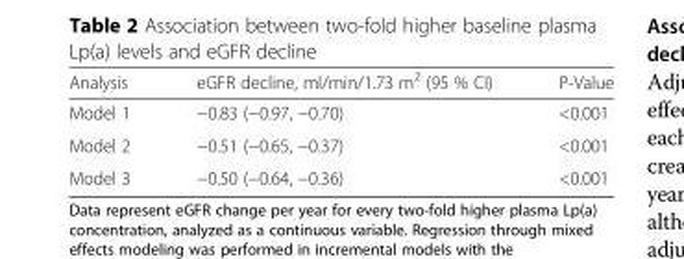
<table><thead><tr><td>Analysis</td><td>eGFR decline, ml/min/1.73 m<sup>2</sup> (95 % CI)</td><td>P-Value</td></tr></thead><tbody><tr><td>Model 1</td><td>−0.83 (−0.97, −0.70)</td><td>&lt;0.001</td></tr><tr><td>Model 2</td><td>−0.51 (−0.65, −0.37)</td><td>&lt;0.001</td></tr><tr><td>Model 3</td><td>−0.50 (−0.64, −0.36)</td><td>&lt;0.001</td></tr></tbody></table>